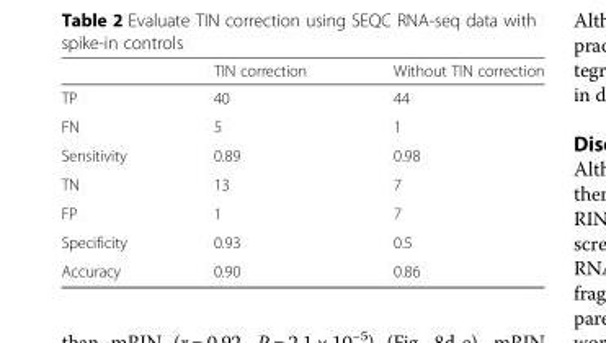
<table><thead><tr><td></td><td>TIN correction</td><td>Without TIN correction</td></tr></thead><tbody><tr><td>TP</td><td>40</td><td>44</td></tr><tr><td>FN</td><td>5</td><td>1</td></tr><tr><td>Sensitivity</td><td>0.89</td><td>0.98</td></tr><tr><td>TN</td><td>13</td><td>7</td></tr><tr><td>FP</td><td>1</td><td>7</td></tr><tr><td>Specificity</td><td>0.93</td><td>0.5</td></tr><tr><td>Accuracy</td><td>0.90</td><td>0.86</td></tr></tbody></table>